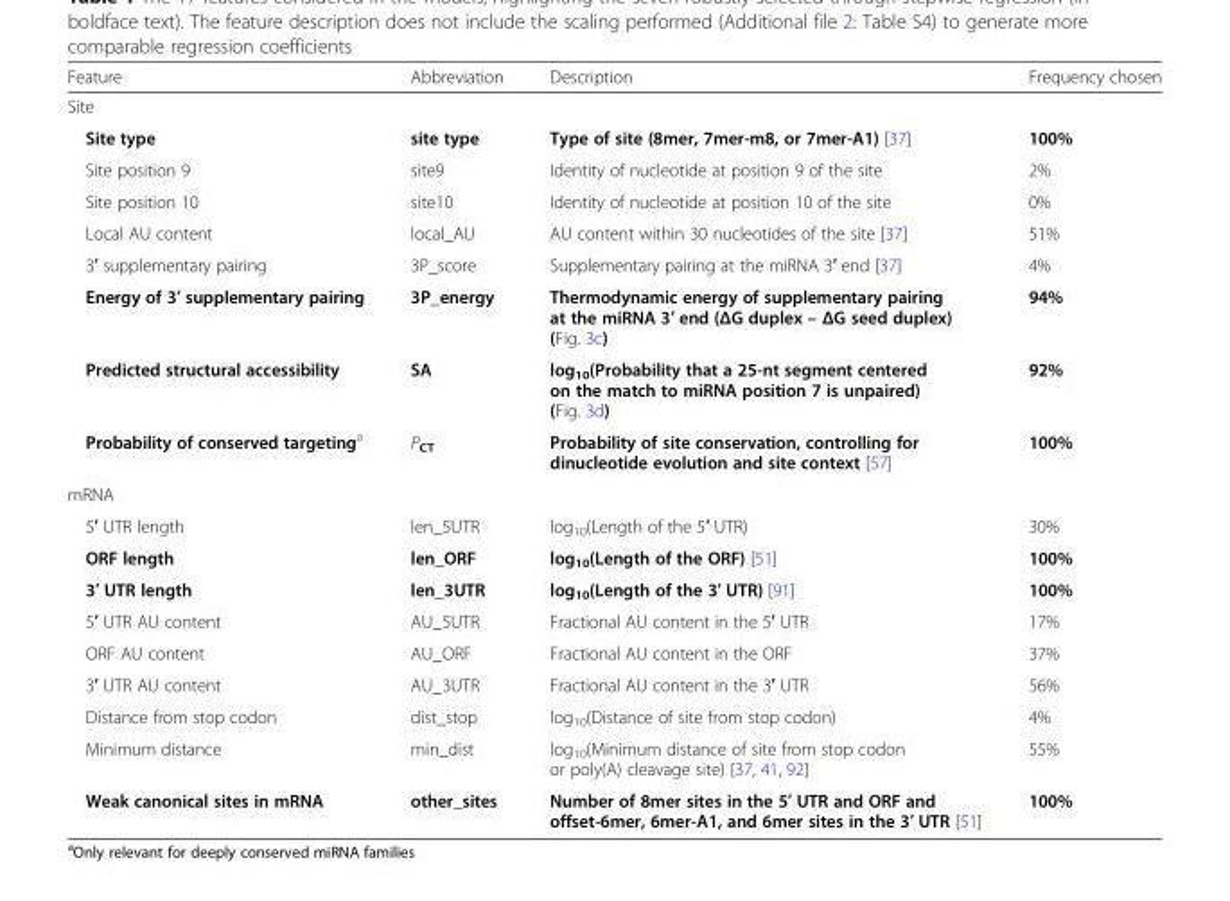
<table><thead><tr><td>Feature</td><td>Abbreviation</td><td>Description</td><td>Frequency chosen</td></tr></thead><tbody><tr><td colspan="4">Site</td></tr><tr><td>Site type</td><td>site type</td><td>Type of site (8mer, 7mer-m8, or 7mer-A1) [37]</td><td>100%</td></tr><tr><td>Site position 9</td><td>site9</td><td>Identity of nucleotide at position 9 of the site</td><td>2%</td></tr><tr><td>Site position 10</td><td>site10</td><td>Identity of nucleotide at position 10 of the site</td><td>0%</td></tr><tr><td>Local AU content</td><td>local_AU</td><td>AU content within 30 nucleotides of the site [37]</td><td>51%</td></tr><tr><td>3′ supplementary pairing</td><td>3P_score</td><td>Supplementary pairing at the miRNA 3′ end [37]</td><td>4%</td></tr><tr><td>Energy of 3′ supplementary pairing</td><td>3P_energy</td><td>Thermodynamic energy of supplementary pairing at the miRNA 3′ end (ΔG duplex – ΔG seed duplex) (Fig. 3c)</td><td>94%</td></tr><tr><td>Predicted structural accessibility</td><td>SA</td><td>log<sub>10</sub>(Probability that a 25-nt segment centered on the match to miRNA position 7 is unpaired) (Fig. 3d)</td><td>92%</td></tr><tr><td>Probability of conserved targeting<sup>a</sup></td><td>P<sub>CT</sub></td><td>Probability of site conservation, controlling for dinucleotide evolution and site context [57]</td><td>100%</td></tr><tr><td colspan="4">mRNA</td></tr><tr><td>5′ UTR length</td><td>len_5UTR</td><td>log<sub>10</sub>(Length of the 5′ UTR)</td><td>30%</td></tr><tr><td>ORF length</td><td>len_ORF</td><td>log<sub>10</sub>(Length of the ORF) [51]</td><td>100%</td></tr><tr><td>3′ UTR length</td><td>len_3UTR</td><td>log<sub>10</sub>(Length of the 3′ UTR) [91]</td><td>100%</td></tr><tr><td>5′ UTR AU content</td><td>AU_5UTR</td><td>Fractional AU content in the 5′ UTR</td><td>17%</td></tr><tr><td>ORF AU content</td><td>AU_ORF</td><td>Fractional AU content in the ORF</td><td>37%</td></tr><tr><td>3′ UTR AU content</td><td>AU_3UTR</td><td>Fractional AU content in the 3′ UTR</td><td>56%</td></tr><tr><td>Distance from stop codon</td><td>dist_stop</td><td>log<sub>10</sub>(Distance of site from stop codon)</td><td>4%</td></tr><tr><td>Minimum distance</td><td>min_dist</td><td>log<sub>10</sub>(Minimum distance of site from stop codon or poly(A) cleavage site) [37, 41, 92]</td><td>55%</td></tr><tr><td>Weak canonical sites in mRNA</td><td>other_sites</td><td>Number of 8mer sites in the 5′ UTR and ORF and offset-6mer, 6mer-A1, and 6mer sites in the 3′ UTR [51]</td><td>100%</td></tr></tbody></table>